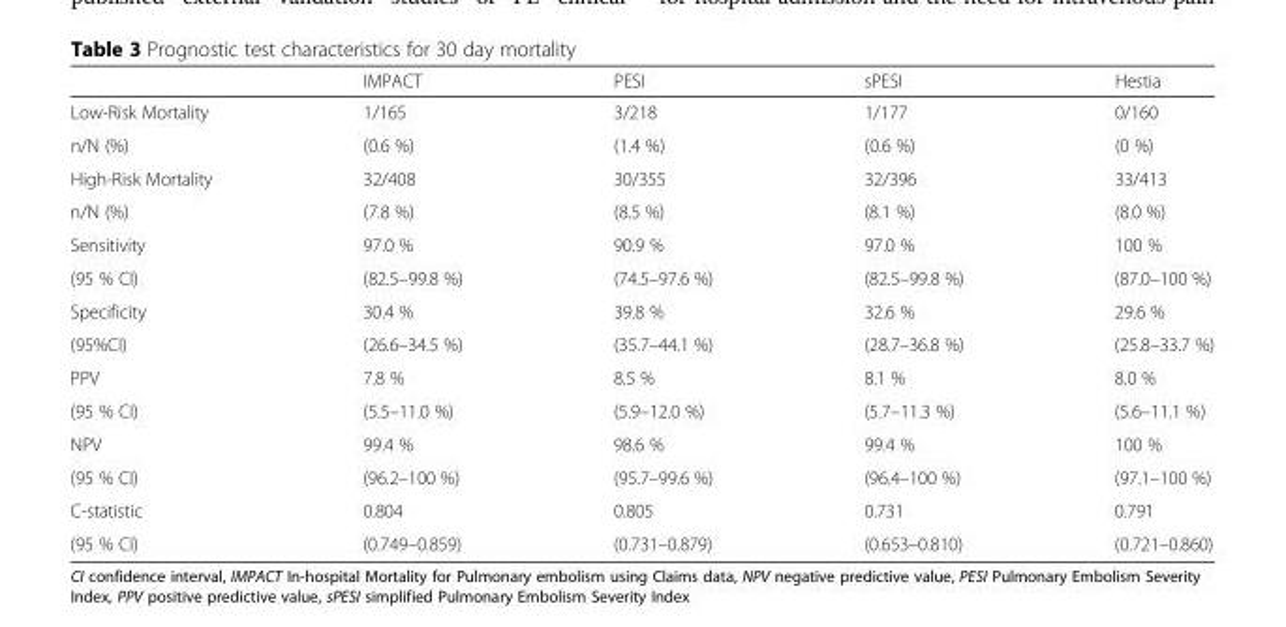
<table><thead><tr><td></td><td>IMPACT</td><td>PESI</td><td>sPESI</td><td>Hestia</td></tr></thead><tbody><tr><td>Low-Risk Mortality</td><td>1/165</td><td>3/218</td><td>1/177</td><td>0/160</td></tr><tr><td>n/N (%)</td><td>(0.6 %)</td><td>(1.4 %)</td><td>(0.6 %)</td><td>(0 %)</td></tr><tr><td>High-Risk Mortality</td><td>32/408</td><td>30/355</td><td>32/396</td><td>33/413</td></tr><tr><td>n/N (%)</td><td>(7.8 %)</td><td>(8.5 %)</td><td>(8.1 %)</td><td>(8.0 %)</td></tr><tr><td>Sensitivity</td><td>97.0 %</td><td>90.9 %</td><td>97.0 %</td><td>100 %</td></tr><tr><td>(95 % CI)</td><td>(82.5–99.8 %)</td><td>(74.5–97.6 %)</td><td>(82.5–99.8 %)</td><td>(87.0–100 %)</td></tr><tr><td>Specificity</td><td>30.4 %</td><td>39.8 %</td><td>32.6 %</td><td>29.6 %</td></tr><tr><td>(95%CI)</td><td>(26.6–34.5 %)</td><td>(35.7–44.1 %)</td><td>(28.7–36.8 %)</td><td>(25.8–33.7 %)</td></tr><tr><td>PPV</td><td>7.8 %</td><td>8.5 %</td><td>8.1 %</td><td>8.0 %</td></tr><tr><td>(95 % CI)</td><td>(5.5–11.0 %)</td><td>(5.9–12.0 %)</td><td>(5.7–11.3 %)</td><td>(5.6–11.1 %)</td></tr><tr><td>NPV</td><td>99.4 %</td><td>98.6 %</td><td>99.4 %</td><td>100 %</td></tr><tr><td>(95 % CI)</td><td>(96.2–100 %)</td><td>(95.7–99.6 %)</td><td>(96.4–100 %)</td><td>(97.1–100 %)</td></tr><tr><td>C-statistic</td><td>0.804</td><td>0.805</td><td>0.731</td><td>0.791</td></tr><tr><td>(95 % CI)</td><td>(0.749–0.859)</td><td>(0.731–0.879)</td><td>(0.653–0.810)</td><td>(0.721–0.860)</td></tr></tbody></table>